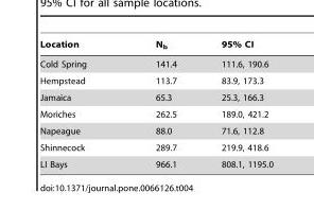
<table><thead><tr><td>Location</td><td>N<sub>b</sub></td><td>95% CI</td></tr></thead><tbody><tr><td>Cold Spring</td><td>141.4</td><td>111.6, 190.6</td></tr><tr><td>Hempstead</td><td>113.7</td><td>83.9, 173.3</td></tr><tr><td>Jamaica</td><td>65.3</td><td>25.3, 166.3</td></tr><tr><td>Moriches</td><td>262.5</td><td>189.0, 421.2</td></tr><tr><td>Napeague</td><td>88.0</td><td>71.6, 112.8</td></tr><tr><td>Shinnecock</td><td>289.7</td><td>219.9, 418.6</td></tr><tr><td>LI Bays</td><td>966.1</td><td>808.1, 1195.0</td></tr></tbody></table>